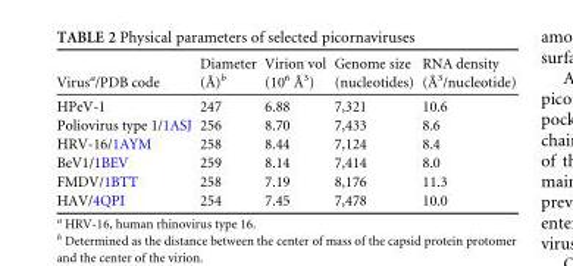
<table><thead><tr><td>Virus<sup>a</sup>/PDB code</td><td>Diameter (Å)<sup>b</sup></td><td>Virion vol (10<sup>6</sup> Å<sup>3</sup>)</td><td>Genome size (nucleotides)</td><td>RNA density (Å<sup>3</sup>/nucleotide)</td></tr></thead><tbody><tr><td>HPeV-1</td><td>247</td><td>6.88</td><td>7,321</td><td>10.6</td></tr><tr><td>Poliovirus type 1/1ASJ</td><td>256</td><td>8.70</td><td>7,433</td><td>8.6</td></tr><tr><td>HRV-16/1AYM</td><td>258</td><td>8.44</td><td>7,124</td><td>8.4</td></tr><tr><td>BeV1/1BEV</td><td>259</td><td>8.14</td><td>7,414</td><td>8.0</td></tr><tr><td>FMDV/1BTT</td><td>258</td><td>7.19</td><td>8,176</td><td>11.3</td></tr><tr><td>HAV/4QPI</td><td>254</td><td>7.45</td><td>7,478</td><td>10.0</td></tr></tbody></table>